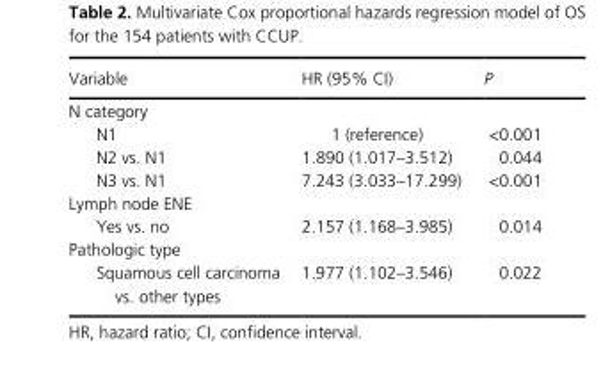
<table><thead><tr><td>Variable</td><td>HR (95% CI)</td><td>P</td></tr></thead><tbody><tr><td colspan="3">N category</td></tr><tr><td>N1</td><td>1 (reference)</td><td>&lt;0.001</td></tr><tr><td>N2 vs. N1</td><td>1.890 (1.017–3.512)</td><td>0.044</td></tr><tr><td>N3 vs. N1</td><td>7.243 (3.033–17.299)</td><td>&lt;0.001</td></tr><tr><td colspan="3">Lymph node ENE</td></tr><tr><td>Yes vs. no</td><td>2.157 (1.168–3.985)</td><td>0.014</td></tr><tr><td colspan="3">Pathologic type</td></tr><tr><td>Squamous cell carcinoma vs. other types</td><td>1.977 (1.102–3.546)</td><td>0.022</td></tr></tbody></table>